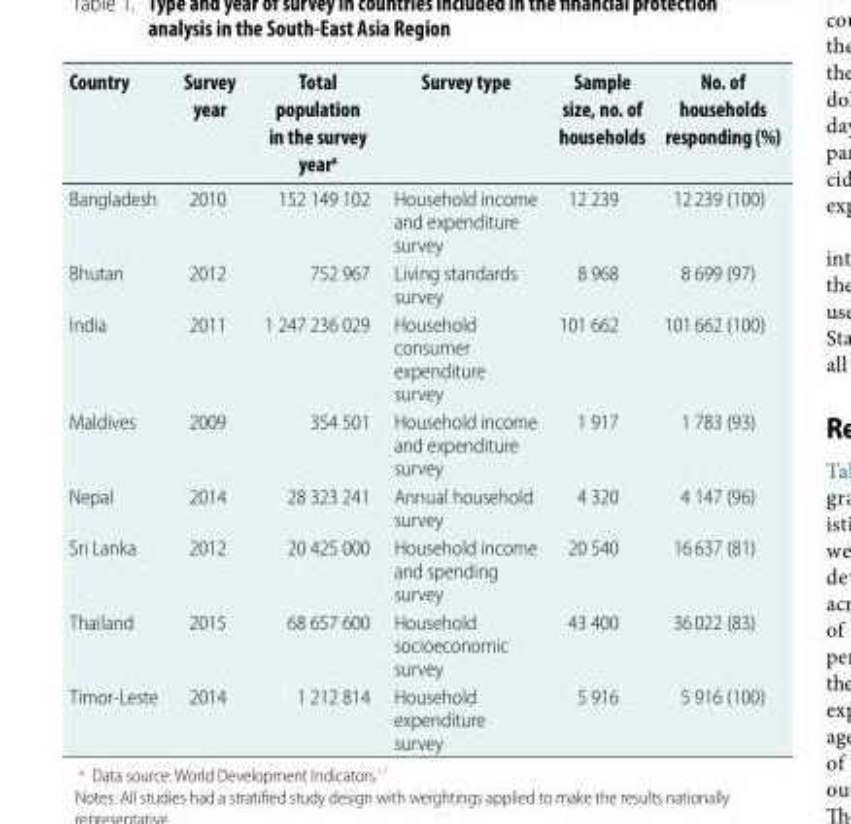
<table><thead><tr><td>Country</td><td>Survey year</td><td>Total population in the survey year<sup>a</sup></td><td>Survey type</td><td>Sample size, no. of households</td><td>No. of households responding (%)</td></tr></thead><tbody><tr><td>Bangladesh</td><td>2010</td><td>152 149 102</td><td>Household income and expenditure survey</td><td>12 239</td><td>12 239 (100)</td></tr><tr><td>Bhutan</td><td>2012</td><td>752 967</td><td>Living standards survey</td><td>8 968</td><td>8 699 (97)</td></tr><tr><td>India</td><td>2011</td><td>1 247 236 029</td><td>Household consumer expenditure survey</td><td>101 662</td><td>101 662 (100)</td></tr><tr><td>Maldives</td><td>2009</td><td>354 501</td><td>Household income and expenditure survey</td><td>1 917</td><td>1 783 (93)</td></tr><tr><td>Nepal</td><td>2014</td><td>28 323 241</td><td>Annual household survey</td><td>4 320</td><td>4 147 (96)</td></tr><tr><td>Sri Lanka</td><td>2012</td><td>20 425 000</td><td>Household income and spending survey</td><td>20 540</td><td>16 637 (81)</td></tr><tr><td>Thailand</td><td>2015</td><td>68 657 600</td><td>Household socioeconomic survey</td><td>43 400</td><td>36 022 (83)</td></tr><tr><td>Timor-Leste</td><td>2014</td><td>1 212 814</td><td>Household expenditure survey</td><td>5 916</td><td>5 916 (100)</td></tr></tbody></table>